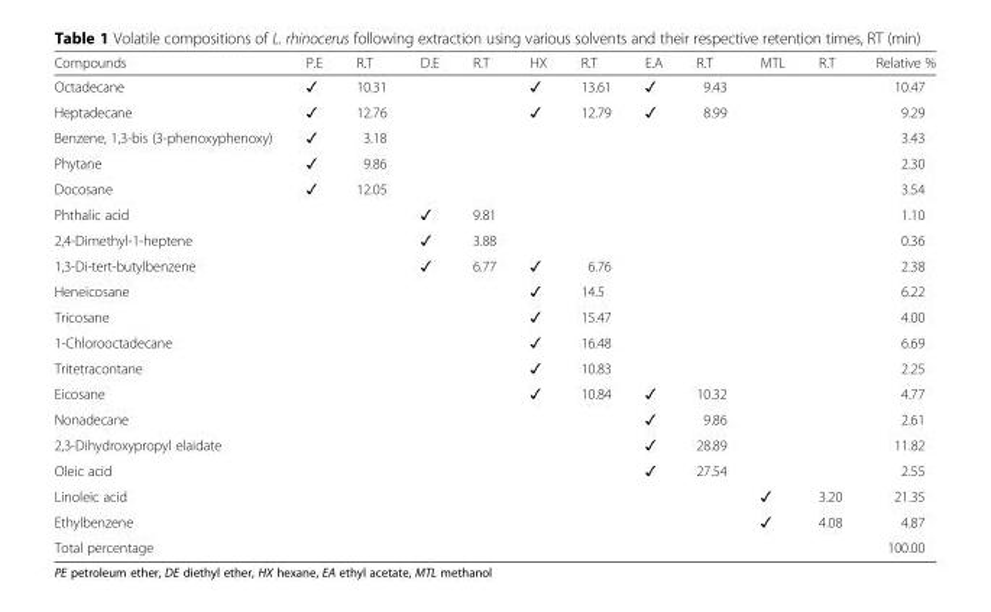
<table><thead><tr><td>Compounds</td><td>P.E</td><td>R.T</td><td>D.E</td><td>R.T</td><td>HX</td><td>R.T</td><td>E.A</td><td>R.T</td><td>MTL</td><td>R.T</td><td>Relative %</td></tr></thead><tbody><tr><td>Octadecane</td><td>✓</td><td>10.31</td><td></td><td></td><td>✓</td><td>13.61</td><td>✓</td><td>9.43</td><td></td><td></td><td>10.47</td></tr><tr><td>Heptadecane</td><td>✓</td><td>12.76</td><td></td><td></td><td>✓</td><td>12.79</td><td>✓</td><td>8.99</td><td></td><td></td><td>9.29</td></tr><tr><td>Benzene, 1,3-bis (3-phenoxyphenoxy)</td><td>✓</td><td>3.18</td><td></td><td></td><td></td><td></td><td></td><td></td><td></td><td></td><td>3.43</td></tr><tr><td>Phytane</td><td>✓</td><td>9.86</td><td></td><td></td><td></td><td></td><td></td><td></td><td></td><td></td><td>2.30</td></tr><tr><td>Docosane</td><td>✓</td><td>12.05</td><td></td><td></td><td></td><td></td><td></td><td></td><td></td><td></td><td>3.54</td></tr><tr><td>Phthalic acid</td><td></td><td></td><td>✓</td><td>9.81</td><td></td><td></td><td></td><td></td><td></td><td></td><td>1.10</td></tr><tr><td>2,4-Dimethyl-1-heptene</td><td></td><td></td><td>✓</td><td>3.88</td><td></td><td></td><td></td><td></td><td></td><td></td><td>0.36</td></tr><tr><td>1,3-Di-tert-butylbenzene</td><td></td><td></td><td>✓</td><td>6.77</td><td>✓</td><td>6.76</td><td></td><td></td><td></td><td></td><td>2.38</td></tr><tr><td>Heneicosane</td><td></td><td></td><td></td><td></td><td>✓</td><td>14.5</td><td></td><td></td><td></td><td></td><td>6.22</td></tr><tr><td>Tricosane</td><td></td><td></td><td></td><td></td><td>✓</td><td>15.47</td><td></td><td></td><td></td><td></td><td>4.00</td></tr><tr><td>1-Chlorooctadecane</td><td></td><td></td><td></td><td></td><td>✓</td><td>16.48</td><td></td><td></td><td></td><td></td><td>6.69</td></tr><tr><td>Tritetracontane</td><td></td><td></td><td></td><td></td><td>✓</td><td>10.83</td><td></td><td></td><td></td><td></td><td>2.25</td></tr><tr><td>Eicosane</td><td></td><td></td><td></td><td></td><td>✓</td><td>10.84</td><td>✓</td><td>10.32</td><td></td><td></td><td>4.77</td></tr><tr><td>Nonadecane</td><td></td><td></td><td></td><td></td><td></td><td></td><td>✓</td><td>9.86</td><td></td><td></td><td>2.61</td></tr><tr><td>2,3-Dihydroxypropyl elaidate</td><td></td><td></td><td></td><td></td><td></td><td></td><td>✓</td><td>28.89</td><td></td><td></td><td>11.82</td></tr><tr><td>Oleic acid</td><td></td><td></td><td></td><td></td><td></td><td></td><td>✓</td><td>27.54</td><td></td><td></td><td>2.55</td></tr><tr><td>Linoleic acid</td><td></td><td></td><td></td><td></td><td></td><td></td><td></td><td></td><td>✓</td><td>3.20</td><td>21.35</td></tr><tr><td>Ethylbenzene</td><td></td><td></td><td></td><td></td><td></td><td></td><td></td><td></td><td>✓</td><td>4.08</td><td>4.87</td></tr><tr><td colspan="11">Total percentage</td><td>100.00</td></tr></tbody></table>